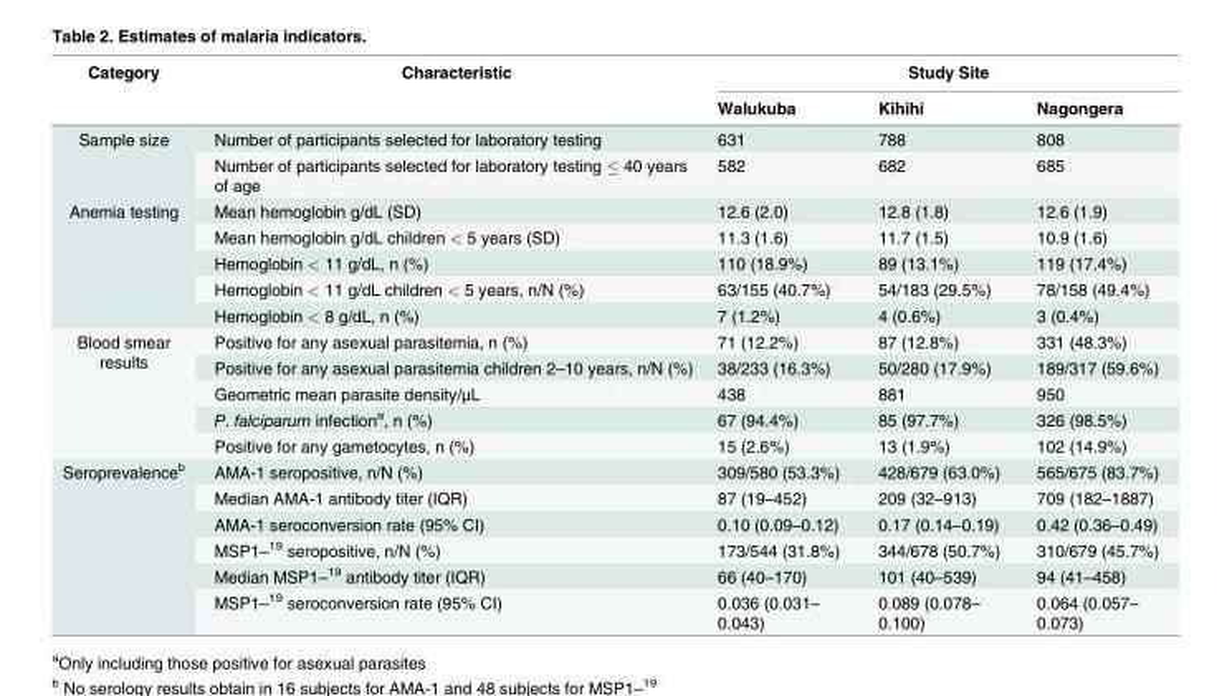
<table><thead><tr><td rowspan="2">Category</td><td rowspan="2">Characteristic</td><td colspan="3">Study Site</td></tr><tr><td>Walukuba</td><td>Kihihi</td><td>Nagongera</td></tr></thead><tbody><tr><td rowspan="2">Sample size</td><td>Number of participants selected for laboratory testing</td><td>631</td><td>788</td><td>808</td></tr><tr><td>Number of participants selected for laboratory testing ≤ 40 years of age</td><td>582</td><td>682</td><td>685</td></tr><tr><td rowspan="5">Anemia testing</td><td>Mean hemoglobin g/dL (SD)</td><td>12.6 (2.0)</td><td>12.8 (1.8)</td><td>12.6 (1.9)</td></tr><tr><td>Mean hemoglobin g/dL children &lt; 5 years (SD)</td><td>11.3 (1.6)</td><td>11.7 (1.5)</td><td>10.9 (1.6)</td></tr><tr><td>Hemoglobin &lt; 11 g/dL, n (%)</td><td>110 (18.9%)</td><td>89 (13.1%)</td><td>119 (17.4%)</td></tr><tr><td>Hemoglobin &lt; 11 g/dL children &lt; 5 years, n/N (%)</td><td>63/155 (40.7%)</td><td>54/183 (29.5%)</td><td>78/158 (49.4%)</td></tr><tr><td>Hemoglobin &lt; 8 g/dL, n (%)</td><td>7 (1.2%)</td><td>4 (0.6%)</td><td>3 (0.4%)</td></tr><tr><td rowspan="5">Blood smear results</td><td>Positive for any asexual parasitemia, n (%)</td><td>71 (12.2%)</td><td>87 (12.8%)</td><td>331 (48.3%)</td></tr><tr><td>Positive for any asexual parasitemia children 2–10 years, n/N (%)</td><td>38/233 (16.3%)</td><td>50/280 (17.9%)</td><td>189/317 (59.6%)</td></tr><tr><td>Geometric mean parasite density/μL</td><td>438</td><td>881</td><td>950</td></tr><tr><td>P. falciparum infection<sup>a</sup>, n (%)</td><td>67 (94.4%)</td><td>85 (97.7%)</td><td>326 (98.5%)</td></tr><tr><td>Positive for any gametocytes, n (%)</td><td>15 (2.6%)</td><td>13 (1.9%)</td><td>102 (14.9%)</td></tr><tr><td rowspan="6">Seroprevalence<sup>b</sup></td><td>AMA-1 seropositive, n/N (%)</td><td>309/580 (53.3%)</td><td>428/679 (63.0%)</td><td>565/675 (83.7%)</td></tr><tr><td>Median AMA-1 antibody titer (IQR)</td><td>87 (19–452)</td><td>209 (32–913)</td><td>709 (182–1887)</td></tr><tr><td>AMA-1 seroconversion rate (95% CI)</td><td>0.10 (0.09–0.12)</td><td>0.17 (0.14–0.19)</td><td>0.42 (0.36–0.49)</td></tr><tr><td>MSP1–<sup>19</sup> seropositive, n/N (%)</td><td>173/544 (31.8%)</td><td>344/678 (50.7%)</td><td>310/679 (45.7%)</td></tr><tr><td>Median MSP1–<sup>19</sup> antibody titer (IQR)</td><td>66 (40–170)</td><td>101 (40–539)</td><td>94 (41–458)</td></tr><tr><td>MSP1–<sup>19</sup> seroconversion rate (95% CI)</td><td>0.036 (0.031– 0.043)</td><td>0.089 (0.078– 0.100)</td><td>0.064 (0.057– 0.073)</td></tr></tbody></table>